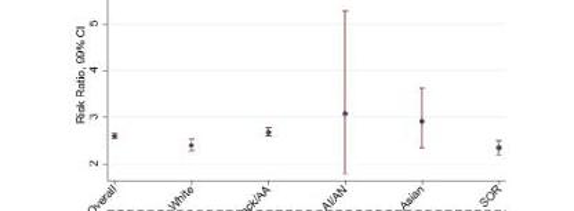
<table><thead><tr><td>Race</td><td>Odds Ratio</td><td>99% CI</td><td>P</td></tr></thead><tbody><tr><td>AI/AN</td><td>16.8</td><td>1.68–168.0</td><td>0.001</td></tr><tr><td>Asian</td><td>7.3</td><td>4.24–12.64</td><td>&lt;0.001</td></tr><tr><td>Black/AA</td><td>11.0</td><td>9.75–12–64</td><td>&lt;0.001</td></tr><tr><td>White</td><td>5.8</td><td>5.23–6.49</td><td>&lt;0.001</td></tr><tr><td>SOR</td><td>8.9</td><td>7.13–11.19</td><td>&lt;0.001</td></tr></tbody></table>